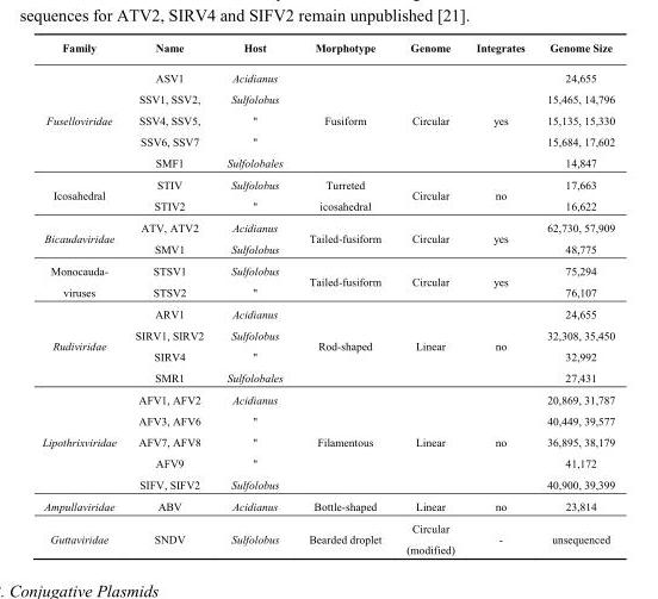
<table><thead><tr><td>Family</td><td>Name</td><td>Host</td><td>Morphotype</td><td>Genome</td><td>Integrates</td><td>Genome Size</td></tr></thead><tbody><tr><td rowspan="5">Fuselloviridae</td><td>ASV1</td><td>Acidianus</td><td rowspan="5">Fusiform</td><td rowspan="5">Circular</td><td rowspan="5">yes</td><td>24,655</td></tr><tr><td>SSV1, SSV2,</td><td>Sulfolobus</td><td>15,465, 14,796</td></tr><tr><td>SSV4, SSV5,</td><td>&quot;</td><td>15,135, 15,330</td></tr><tr><td>SSV6, SSV7</td><td>&quot;</td><td>15,684, 17,602</td></tr><tr><td>SMF1</td><td>Sulfolobales</td><td>14,847</td></tr><tr><td rowspan="2">Icosahedral</td><td>STIV</td><td>Sulfolobus</td><td rowspan="2">Turreted icosahedral</td><td rowspan="2">Circular</td><td rowspan="2">no</td><td>17,663</td></tr><tr><td>STIV2</td><td>&quot;</td><td>16,622</td></tr><tr><td rowspan="2">Bicaudaviridae</td><td>ATV, ATV2</td><td>Acidianus</td><td rowspan="2">Tailed-fusiform</td><td rowspan="2">Circular</td><td rowspan="2">yes</td><td>62,730, 57,909</td></tr><tr><td>SMV1</td><td>Sulfolobus</td><td>48,775</td></tr><tr><td rowspan="2">Monocauda- viruses</td><td>STSV1</td><td>Sulfolobus</td><td rowspan="2">Tailed-fusiform</td><td rowspan="2">Circular</td><td rowspan="2">yes</td><td>75,294</td></tr><tr><td>STSV2</td><td>&quot;</td><td>76,107</td></tr><tr><td rowspan="4">Rudiviridae</td><td>ARV1</td><td>Acidianus</td><td rowspan="4">Rod-shaped</td><td rowspan="4">Linear</td><td rowspan="4">no</td><td>24,655</td></tr><tr><td>SIRV1, SIRV2</td><td>Sulfolobus</td><td>32,308, 35,450</td></tr><tr><td>SIRV4</td><td>&quot;</td><td>32,992</td></tr><tr><td>SMR1</td><td>Sulfolobales</td><td>27,431</td></tr><tr><td rowspan="5">Lipothrixviridae</td><td>AFV1, AFV2</td><td>Acidianus</td><td rowspan="5">Filamentous</td><td rowspan="5">Linear</td><td rowspan="5">no</td><td>20,869, 31,787</td></tr><tr><td>AFV3, AFV6</td><td>&quot;</td><td>40,449, 39,577</td></tr><tr><td>AFV7, AFV8</td><td>&quot;</td><td>36,895, 38,179</td></tr><tr><td>AFV9</td><td>&quot;</td><td>41,172</td></tr><tr><td>SIFV, SIFV2</td><td>Sulfolobus</td><td>40,900, 39,399</td></tr><tr><td>Ampullaviridae</td><td>ABV</td><td>Acidianus</td><td>Bottle-shaped</td><td>Linear</td><td>no</td><td>23,814</td></tr><tr><td>Guttaviridae</td><td>SNDV</td><td>Sulfolobus</td><td>Bearded droplet</td><td>Circular (modified)</td><td>-</td><td>unsequenced</td></tr></tbody></table>